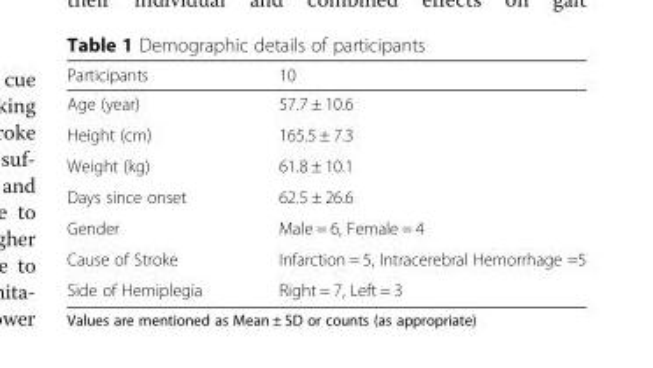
<table><thead><tr><td>Participants</td><td>10</td></tr></thead><tbody><tr><td>Age (year)</td><td>57.7 ± 10.6</td></tr><tr><td>Height (cm)</td><td>165.5 ± 7.3</td></tr><tr><td>Weight (kg)</td><td>61.8 ± 10.1</td></tr><tr><td>Days since onset</td><td>62.5 ± 26.6</td></tr><tr><td>Gender</td><td>Male = 6, Female = 4</td></tr><tr><td>Cause of Stroke</td><td>Infarction = 5, Intracerebral Hemorrhage =5</td></tr><tr><td>Side of Hemiplegia</td><td>Right = 7, Left = 3</td></tr></tbody></table>